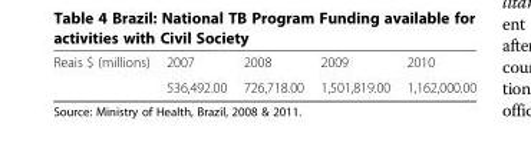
<table><tbody><tr><td rowspan="2">Reais $ (millions)</td><td>2007</td><td>2008</td><td>2009</td><td>2010</td></tr><tr><td>536,492.00</td><td>726,718.00</td><td>1,501,819.00</td><td>1,162,000.00</td></tr></tbody></table>